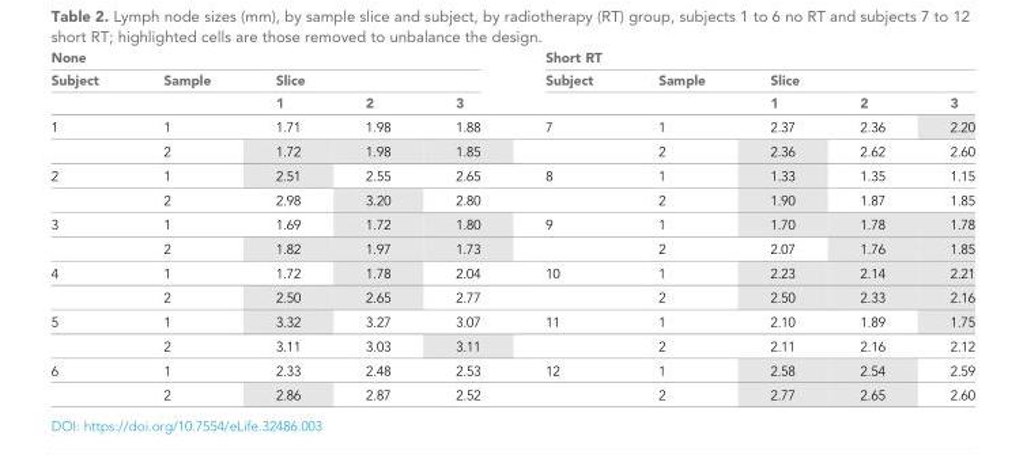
<table><thead><tr><td colspan="5">None</td><td colspan="5">Short RT</td></tr><tr><td rowspan="2">Subject</td><td rowspan="2">Sample</td><td colspan="3">Slice</td><td rowspan="2">Subject</td><td rowspan="2">Sample</td><td colspan="3">Slice</td></tr><tr><td>1</td><td>2</td><td>3</td><td>1</td><td>2</td><td>3</td></tr></thead><tbody><tr><td rowspan="2">1</td><td>1</td><td>1.71</td><td>1.98</td><td>1.88</td><td>7</td><td>1</td><td>2.37</td><td>2.36</td><td>2.20</td></tr><tr><td>2</td><td>1.72</td><td>1.98</td><td>1.85</td><td></td><td>2</td><td>2.36</td><td>2.62</td><td>2.60</td></tr><tr><td rowspan="2">2</td><td>1</td><td>2.51</td><td>2.55</td><td>2.65</td><td>8</td><td>1</td><td>1.33</td><td>1.35</td><td>1.15</td></tr><tr><td>2</td><td>2.98</td><td>3.20</td><td>2.80</td><td></td><td>2</td><td>1.90</td><td>1.87</td><td>1.85</td></tr><tr><td rowspan="2">3</td><td>1</td><td>1.69</td><td>1.72</td><td>1.80</td><td>9</td><td>1</td><td>1.70</td><td>1.78</td><td>1.78</td></tr><tr><td>2</td><td>1.82</td><td>1.97</td><td>1.73</td><td></td><td>2</td><td>2.07</td><td>1.76</td><td>1.85</td></tr><tr><td rowspan="2">4</td><td>1</td><td>1.72</td><td>1.78</td><td>2.04</td><td>10</td><td>1</td><td>2.23</td><td>2.14</td><td>2.21</td></tr><tr><td>2</td><td>2.50</td><td>2.65</td><td>2.77</td><td></td><td>2</td><td>2.50</td><td>2.33</td><td>2.16</td></tr><tr><td rowspan="2">5</td><td>1</td><td>3.32</td><td>3.27</td><td>3.07</td><td>11</td><td>1</td><td>2.10</td><td>1.89</td><td>1.75</td></tr><tr><td>2</td><td>3.11</td><td>3.03</td><td>3.11</td><td></td><td>2</td><td>2.11</td><td>2.16</td><td>2.12</td></tr><tr><td rowspan="2">6</td><td>1</td><td>2.33</td><td>2.48</td><td>2.53</td><td>12</td><td>1</td><td>2.58</td><td>2.54</td><td>2.59</td></tr><tr><td>2</td><td>2.86</td><td>2.87</td><td>2.52</td><td></td><td>2</td><td>2.77</td><td>2.65</td><td>2.60</td></tr></tbody></table>